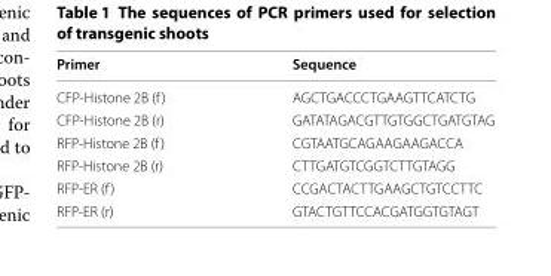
<table><thead><tr><td>Primer</td><td>Sequence</td></tr></thead><tbody><tr><td>CFP‑Histone 2B (f)</td><td>AGCTGACCCTGAAGTTCATCTG</td></tr><tr><td>CFP‑Histone 2B (r)</td><td>GATATAGACGTTGTGGCTGATGTAG</td></tr><tr><td>RFP‑Histone 2B (f)</td><td>CGTAATGCAGAAGAAGACCA</td></tr><tr><td>RFP‑Histone 2B (r)</td><td>CTTGATGTCGGTCTTGTAGG</td></tr><tr><td>RFP‑ER (f)</td><td>CCGACTACTTGAAGCTGTCCTTC</td></tr><tr><td>RFP‑ER (r)</td><td>GTACTGTTCCACGATGGTGTAGT</td></tr></tbody></table>